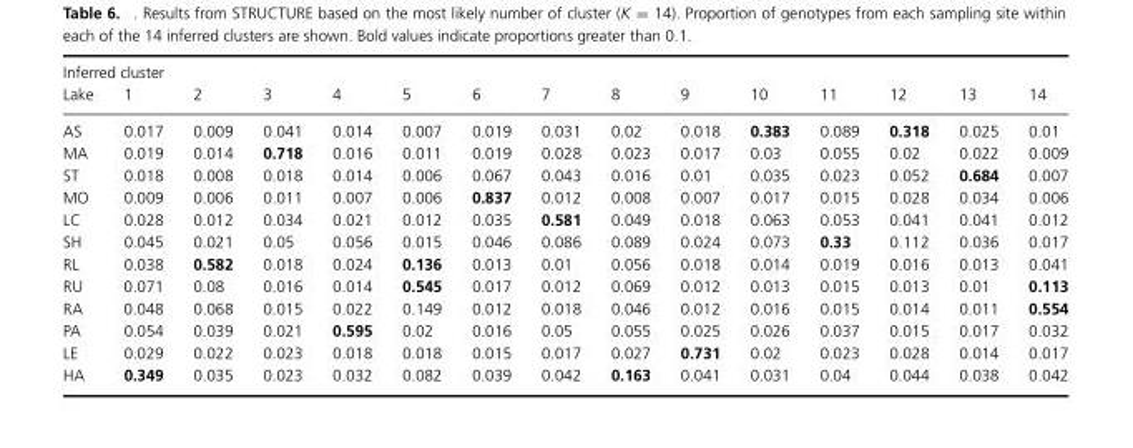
<table><thead><tr><td colspan="15">Inferred cluster</td></tr><tr><td>Lake</td><td>1</td><td>2</td><td>3</td><td>4</td><td>5</td><td>6</td><td>7</td><td>8</td><td>9</td><td>10</td><td>11</td><td>12</td><td>13</td><td>14</td></tr></thead><tbody><tr><td>AS</td><td>0.017</td><td>0.009</td><td>0.041</td><td>0.014</td><td>0.007</td><td>0.019</td><td>0.031</td><td>0.02</td><td>0.018</td><td>0.383</td><td>0.089</td><td>0.318</td><td>0.025</td><td>0.01</td></tr><tr><td>MA</td><td>0.019</td><td>0.014</td><td>0.718</td><td>0.016</td><td>0.011</td><td>0.019</td><td>0.028</td><td>0.023</td><td>0.017</td><td>0.03</td><td>0.055</td><td>0.02</td><td>0.022</td><td>0.009</td></tr><tr><td>ST</td><td>0.018</td><td>0.008</td><td>0.018</td><td>0.014</td><td>0.006</td><td>0.067</td><td>0.043</td><td>0.016</td><td>0.01</td><td>0.035</td><td>0.023</td><td>0.052</td><td>0.684</td><td>0.007</td></tr><tr><td>MO</td><td>0.009</td><td>0.006</td><td>0.011</td><td>0.007</td><td>0.006</td><td>0.837</td><td>0.012</td><td>0.008</td><td>0.007</td><td>0.017</td><td>0.015</td><td>0.028</td><td>0.034</td><td>0.006</td></tr><tr><td>LC</td><td>0.028</td><td>0.012</td><td>0.034</td><td>0.021</td><td>0.012</td><td>0.035</td><td>0.581</td><td>0.049</td><td>0.018</td><td>0.063</td><td>0.053</td><td>0.041</td><td>0.041</td><td>0.012</td></tr><tr><td>SH</td><td>0.045</td><td>0.021</td><td>0.05</td><td>0.056</td><td>0.015</td><td>0.046</td><td>0.086</td><td>0.089</td><td>0.024</td><td>0.073</td><td>0.33</td><td>0.112</td><td>0.036</td><td>0.017</td></tr><tr><td>RL</td><td>0.038</td><td>0.582</td><td>0.018</td><td>0.024</td><td>0.136</td><td>0.013</td><td>0.01</td><td>0.056</td><td>0.018</td><td>0.014</td><td>0.019</td><td>0.016</td><td>0.013</td><td>0.041</td></tr><tr><td>RU</td><td>0.071</td><td>0.08</td><td>0.016</td><td>0.014</td><td>0.545</td><td>0.017</td><td>0.012</td><td>0.069</td><td>0.012</td><td>0.013</td><td>0.015</td><td>0.013</td><td>0.01</td><td>0.113</td></tr><tr><td>RA</td><td>0.048</td><td>0.068</td><td>0.015</td><td>0.022</td><td>0.149</td><td>0.012</td><td>0.018</td><td>0.046</td><td>0.012</td><td>0.016</td><td>0.015</td><td>0.014</td><td>0.011</td><td>0.554</td></tr><tr><td>PA</td><td>0.054</td><td>0.039</td><td>0.021</td><td>0.595</td><td>0.02</td><td>0.016</td><td>0.05</td><td>0.055</td><td>0.025</td><td>0.026</td><td>0.037</td><td>0.015</td><td>0.017</td><td>0.032</td></tr><tr><td>LE</td><td>0.029</td><td>0.022</td><td>0.023</td><td>0.018</td><td>0.018</td><td>0.015</td><td>0.017</td><td>0.027</td><td>0.731</td><td>0.02</td><td>0.023</td><td>0.028</td><td>0.014</td><td>0.017</td></tr><tr><td>HA</td><td>0.349</td><td>0.035</td><td>0.023</td><td>0.032</td><td>0.082</td><td>0.039</td><td>0.042</td><td>0.163</td><td>0.041</td><td>0.031</td><td>0.04</td><td>0.044</td><td>0.038</td><td>0.042</td></tr></tbody></table>